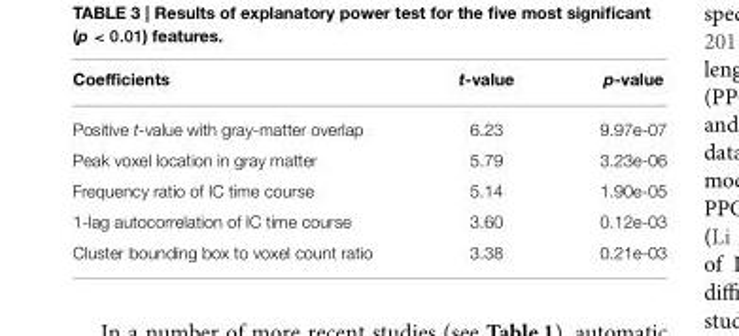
<table><thead><tr><td>Coefficients</td><td>t-value</td><td>p-value</td></tr></thead><tbody><tr><td>Positive t-value with gray-matter overlap</td><td>6.23</td><td>9.97e-07</td></tr><tr><td>Peak voxel location in gray matter</td><td>5.79</td><td>3.23e-06</td></tr><tr><td>Frequency ratio of IC time course</td><td>5.14</td><td>1.90e-05</td></tr><tr><td>1-lag autocorrelation of IC time course</td><td>3.60</td><td>0.12e-03</td></tr><tr><td>Cluster bounding box to voxel count ratio</td><td>3.38</td><td>0.21e-03</td></tr></tbody></table>